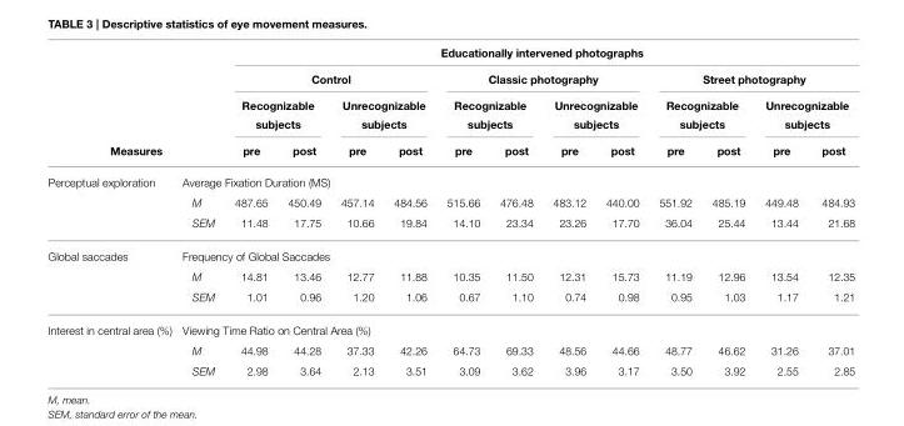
<table><thead><tr><td rowspan="3"></td><td rowspan="3"></td><td colspan="12">Educationally intervened photographs</td></tr><tr><td colspan="4">Control</td><td colspan="4">Classic photography</td><td colspan="4">Street photography</td></tr><tr><td colspan="2">Recognizable subjects</td><td colspan="2">Unrecognizable subjects</td><td colspan="2">Recognizable subjects</td><td colspan="2">Unrecognizable subjects</td><td colspan="2">Recognizable subjects</td><td colspan="2">Unrecognizable subjects</td></tr><tr><td colspan="2">Measures</td><td>pre</td><td>post</td><td>pre</td><td>post</td><td>pre</td><td>post</td><td>pre</td><td>post</td><td>pre</td><td>post</td><td>pre</td><td>post</td></tr></thead><tbody><tr><td rowspan="3">Perceptual exploration</td><td colspan="13">Average Fixation Duration (MS)</td></tr><tr><td>M</td><td>487.65</td><td>450.49</td><td>457.14</td><td>484.56</td><td>515.66</td><td>476.48</td><td>483.12</td><td>440.00</td><td>551.92</td><td>485.19</td><td>449.48</td><td>484.93</td></tr><tr><td>SEM</td><td>11.48</td><td>17.75</td><td>10.66</td><td>19.84</td><td>14.10</td><td>23.34</td><td>23.26</td><td>17.70</td><td>36.04</td><td>25.44</td><td>13.44</td><td>21.68</td></tr><tr><td rowspan="3">Global saccades</td><td colspan="13">Frequency of Global Saccades</td></tr><tr><td>M</td><td>14.81</td><td>13.46</td><td>12.77</td><td>11.88</td><td>10.35</td><td>11.50</td><td>12.31</td><td>15.73</td><td>11.19</td><td>12.96</td><td>13.54</td><td>12.35</td></tr><tr><td>SEM</td><td>1.01</td><td>0.96</td><td>1.20</td><td>1.06</td><td>0.67</td><td>1.10</td><td>0.74</td><td>0.98</td><td>0.95</td><td>1.03</td><td>1.17</td><td>1.21</td></tr><tr><td rowspan="3">Interest in central area (%)</td><td colspan="13">Viewing Time Ratio on Central Area (%)</td></tr><tr><td>M</td><td>44.98</td><td>44.28</td><td>37.33</td><td>42.26</td><td>64.73</td><td>69.33</td><td>48.56</td><td>44.66</td><td>48.77</td><td>46.62</td><td>31.26</td><td>37.01</td></tr><tr><td>SEM</td><td>2.98</td><td>3.64</td><td>2.13</td><td>3.51</td><td>3.09</td><td>3.62</td><td>3.96</td><td>3.17</td><td>3.50</td><td>3.92</td><td>2.55</td><td>2.85</td></tr></tbody></table>